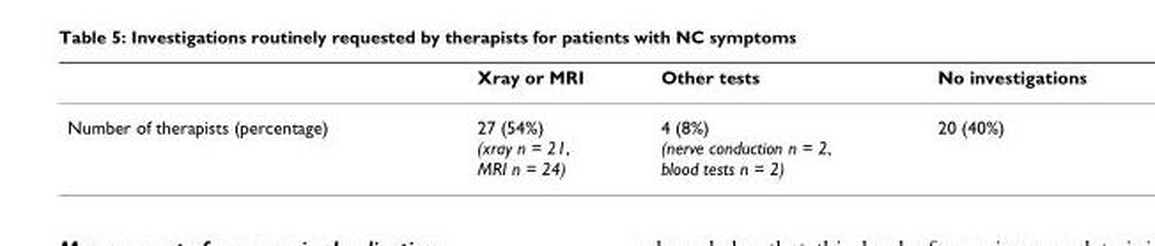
<table><thead><tr><td></td><td>Xray or MRI</td><td>Other tests</td><td>No investigations</td></tr></thead><tbody><tr><td>Number of therapists (percentage)</td><td>27 (54%) (xray n = 21, MRI n = 24)</td><td>4 (8%) (nerve conduction n = 2, blood tests n = 2)</td><td>20 (40%)</td></tr></tbody></table>